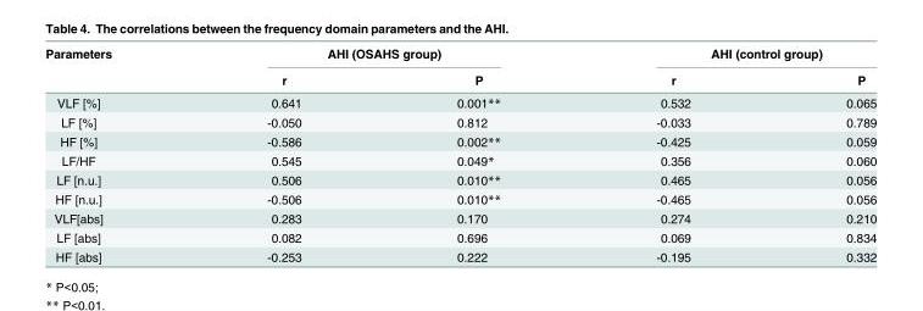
<table><thead><tr><td rowspan="2">Parameters</td><td colspan="2">AHI (OSAHS group)</td><td colspan="2">AHI (control group)</td></tr><tr><td>r</td><td>P</td><td>r</td><td>P</td></tr></thead><tbody><tr><td>VLF [%]</td><td>0.641</td><td>0.001**</td><td>0.532</td><td>0.065</td></tr><tr><td>LF [%]</td><td>-0.050</td><td>0.812</td><td>-0.033</td><td>0.789</td></tr><tr><td>HF [%]</td><td>-0.586</td><td>0.002**</td><td>-0.425</td><td>0.059</td></tr><tr><td>LF/HF</td><td>0.545</td><td>0.049*</td><td>0.356</td><td>0.060</td></tr><tr><td>LF [n.u.]</td><td>0.506</td><td>0.010**</td><td>0.465</td><td>0.056</td></tr><tr><td>HF [n.u.]</td><td>-0.506</td><td>0.010**</td><td>-0.465</td><td>0.056</td></tr><tr><td>VLF[abs]</td><td>0.283</td><td>0.170</td><td>0.274</td><td>0.210</td></tr><tr><td>LF [abs]</td><td>0.082</td><td>0.696</td><td>0.069</td><td>0.834</td></tr><tr><td>HF [abs]</td><td>-0.253</td><td>0.222</td><td>-0.195</td><td>0.332</td></tr></tbody></table>